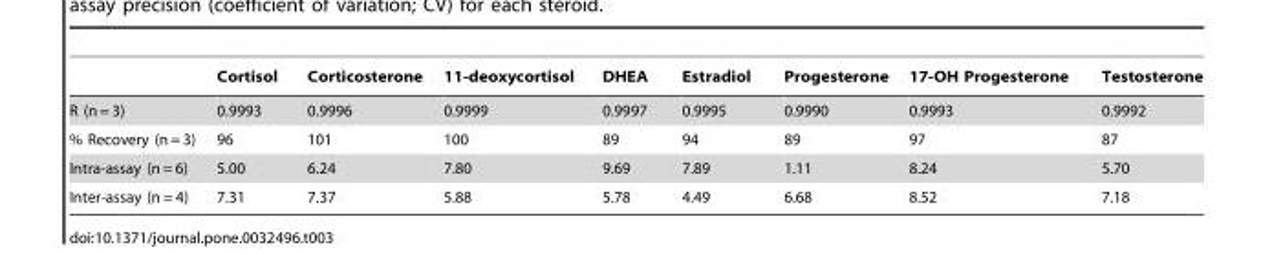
<table><thead><tr><td></td><td>Cortisol</td><td>Corticosterone</td><td>11-deoxycortisol</td><td>DHEA</td><td>Estradiol</td><td>Progesterone</td><td>17-OH Progesterone</td><td>Testosterone</td></tr></thead><tbody><tr><td>R (n = 3)</td><td>0.9993</td><td>0.9996</td><td>0.9999</td><td>0.9997</td><td>0.9995</td><td>0.9990</td><td>0.9993</td><td>0.9992</td></tr><tr><td>% Recovery (n = 3)</td><td>96</td><td>101</td><td>100</td><td>89</td><td>94</td><td>89</td><td>97</td><td>87</td></tr><tr><td>Intra-assay (n = 6)</td><td>5.00</td><td>6.24</td><td>7.80</td><td>9.69</td><td>7.89</td><td>1.11</td><td>8.24</td><td>5.70</td></tr><tr><td>Inter-assay (n = 4)</td><td>7.31</td><td>7.37</td><td>5.88</td><td>5.78</td><td>4.49</td><td>6.68</td><td>8.52</td><td>7.18</td></tr></tbody></table>